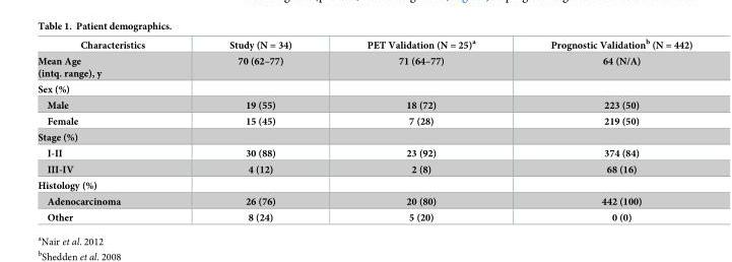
<table><thead><tr><td>Characteristics</td><td>Study (N = 34)</td><td>PET Validation (N = 25)<sup>a</sup></td><td>Prognostic Validation<sup>b</sup> (N = 442)</td></tr></thead><tbody><tr><td>Mean Age (intq. range), y</td><td>70 (62–77)</td><td>71 (64–77)</td><td>64 (N/A)</td></tr><tr><td colspan="4">Sex (%)</td></tr><tr><td>Male</td><td>19 (55)</td><td>18 (72)</td><td>223 (50)</td></tr><tr><td>Female</td><td>15 (45)</td><td>7 (28)</td><td>219 (50)</td></tr><tr><td colspan="4">Stage (%)</td></tr><tr><td>I-II</td><td>30 (88)</td><td>23 (92)</td><td>374 (84)</td></tr><tr><td>III-IV</td><td>4 (12)</td><td>2 (8)</td><td>68 (16)</td></tr><tr><td colspan="4">Histology (%)</td></tr><tr><td>Adenocarcinoma</td><td>26 (76)</td><td>20 (80)</td><td>442 (100)</td></tr><tr><td>Other</td><td>8 (24)</td><td>5 (20)</td><td>0 (0)</td></tr></tbody></table>